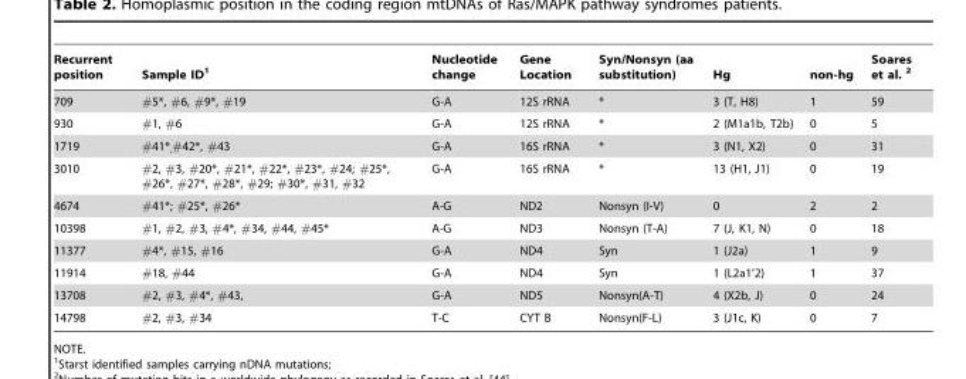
<table><thead><tr><td>Recurrent position</td><td>Sample ID<sup>1</sup></td><td>Nucleotide change</td><td>Gene Location</td><td>Syn/Nonsyn (aa substitution)</td><td>Hg</td><td>non-hg</td><td>Soares et al. 2</td></tr></thead><tbody><tr><td>709</td><td>#5*, #6, #9*, #19</td><td>G-A</td><td>12S rRNA</td><td>*</td><td>3 (T, H8)</td><td>1</td><td>59</td></tr><tr><td>930</td><td>#1, #6</td><td>G-A</td><td>12S rRNA</td><td>*</td><td>2 (M1a1b, T2b)</td><td>0</td><td>5</td></tr><tr><td>1719</td><td>#41*<sub>,</sub>#42*, #43</td><td>G-A</td><td>16S rRNA</td><td>*</td><td>3 (N1, X2)</td><td>0</td><td>31</td></tr><tr><td>3010</td><td>#2, #3, #20*, #21*, #22*, #23*, #24; #25*, #26*, #27*, #28*, #29; #30*, #31, #32</td><td>G-A</td><td>16S rRNA</td><td>*</td><td>13 (H1, J1)</td><td>0</td><td>19</td></tr><tr><td>4674</td><td>#41*; #25*, #26*</td><td>A-G</td><td>ND2</td><td>Nonsyn (I-V)</td><td>0</td><td>2</td><td>2</td></tr><tr><td>10398</td><td>#1, #2, #3, #4*, #34, #44, #45*</td><td>A-G</td><td>ND3</td><td>Nonsyn (T-A)</td><td>7 (J, K1, N)</td><td>0</td><td>18</td></tr><tr><td>11377</td><td>#4*, #15, #16</td><td>G-A</td><td>ND4</td><td>Syn</td><td>1 (J2a)</td><td>1</td><td>9</td></tr><tr><td>11914</td><td>#18, #44</td><td>G-A</td><td>ND4</td><td>Syn</td><td>1 (L2a1’2)</td><td>1</td><td>37</td></tr><tr><td>13708</td><td>#2, #3, #4*, #43,</td><td>G-A</td><td>ND5</td><td>Nonsyn(A-T)</td><td>4 (X2b, J)</td><td>0</td><td>24</td></tr><tr><td>14798</td><td>#2, #3, #34</td><td>T-C</td><td>CYT B</td><td>Nonsyn(F-L)</td><td>3 (J1c, K)</td><td>0</td><td>7</td></tr></tbody></table>